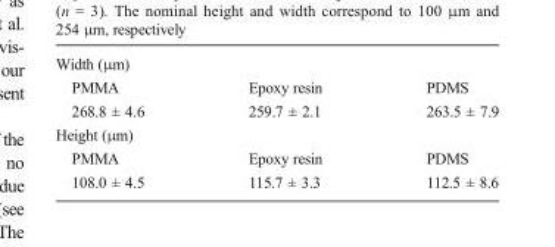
<table><tbody><tr><td colspan="3">Width (μm)</td></tr><tr><td>PMMA</td><td>Epoxy resin</td><td>PDMS</td></tr><tr><td>268.8 ± 4.6</td><td>259.7 ± 2.1</td><td>263.5 ± 7.9</td></tr><tr><td colspan="3">Height (μm)</td></tr><tr><td>PMMA</td><td>Epoxy resin</td><td>PDMS</td></tr><tr><td>108.0 ± 4.5</td><td>115.7 ± 3.3</td><td>112.5 ± 8.6</td></tr></tbody></table>